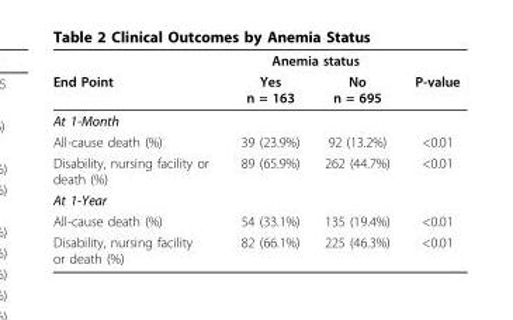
<table><thead><tr><td rowspan="2">End Point</td><td colspan="2">Anemia status</td><td rowspan="2">P-value</td></tr><tr><td>Yes n = 163</td><td>No n = 695</td></tr></thead><tbody><tr><td colspan="4">At 1-Month</td></tr><tr><td>All-cause death (%)</td><td>39 (23.9%)</td><td>92 (13.2%)</td><td>&lt;0.01</td></tr><tr><td>Disability, nursing facility or death (%)</td><td>89 (65.9%)</td><td>262 (44.7%)</td><td>&lt;0.01</td></tr><tr><td colspan="4">At 1-Year</td></tr><tr><td>All-cause death (%)</td><td>54 (33.1%)</td><td>135 (19.4%)</td><td>&lt;0.01</td></tr><tr><td>Disability, nursing facility or death (%)</td><td>82 (66.1%)</td><td>225 (46.3%)</td><td>&lt;0.01</td></tr></tbody></table>